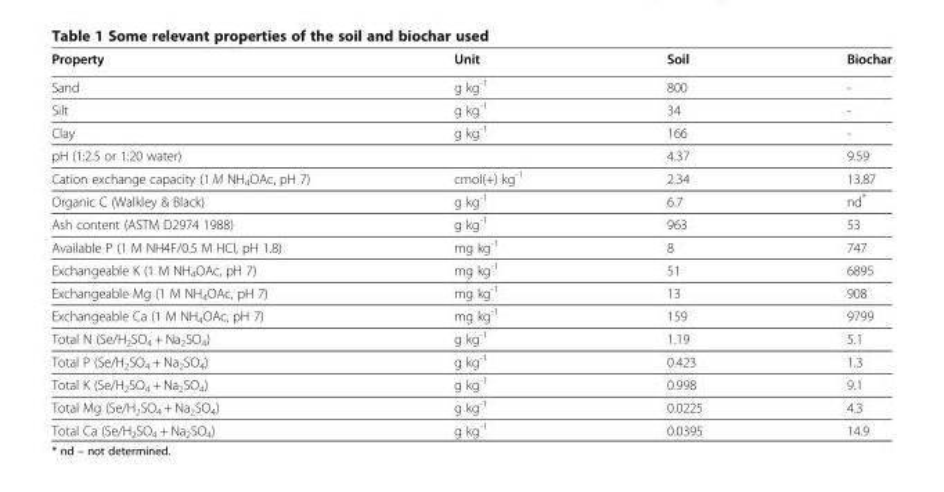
<table><thead><tr><td>Property</td><td>Unit</td><td>Soil</td><td>Biochar</td></tr></thead><tbody><tr><td>Sand</td><td>g kg<sup>-1</sup></td><td>800</td><td>-</td></tr><tr><td>Silt</td><td>g kg<sup>-1</sup></td><td>34</td><td>-</td></tr><tr><td>Clay</td><td>g kg<sup>-1</sup></td><td>166</td><td>-</td></tr><tr><td>pH (1:2.5 or 1:20 water)</td><td></td><td>4.37</td><td>9.59</td></tr><tr><td>Cation exchange capacity (1 M NH<sub>4</sub>OAc, pH 7)</td><td>cmol(+) kg<sup>-1</sup></td><td>2.34</td><td>13.87</td></tr><tr><td>Organic C (Walkley &amp; Black)</td><td>g kg<sup>-1</sup></td><td>6.7</td><td>nd*</td></tr><tr><td>Ash content (ASTM D2974 1988)</td><td>g kg<sup>-1</sup></td><td>963</td><td>53</td></tr><tr><td>Available P (1 M NH4F/0.5 M HCl, pH 1.8)</td><td>mg kg<sup>-1</sup></td><td>8</td><td>747</td></tr><tr><td>Exchangeable K (1 M NH<sub>4</sub>OAc, pH 7)</td><td>mg kg<sup>-1</sup></td><td>51</td><td>6895</td></tr><tr><td>Exchangeable Mg (1 M NH<sub>4</sub>OAc, pH 7)</td><td>mg kg<sup>-1</sup></td><td>13</td><td>908</td></tr><tr><td>Exchangeable Ca (1 M NH<sub>4</sub>OAc, pH 7)</td><td>mg kg<sup>-1</sup></td><td>159</td><td>9799</td></tr><tr><td>Total N (Se/H<sub>2</sub>SO<sub>4</sub> + Na<sub>2</sub>SO<sub>4</sub>)</td><td>g kg<sup>-1</sup></td><td>1.19</td><td>5.1</td></tr><tr><td>Total P (Se/H<sub>2</sub>SO<sub>4</sub> + Na<sub>2</sub>SO<sub>4</sub>)</td><td>g kg<sup>-1</sup></td><td>0.423</td><td>1.3</td></tr><tr><td>Total K (Se/H<sub>2</sub>SO<sub>4</sub> + Na<sub>2</sub>SO<sub>4</sub>)</td><td>g kg<sup>-1</sup></td><td>0.998</td><td>9.1</td></tr><tr><td>Total Mg (Se/H<sub>2</sub>SO<sub>4</sub> + Na<sub>2</sub>SO<sub>4</sub>)</td><td>g kg<sup>-1</sup></td><td>0.0225</td><td>4.3</td></tr><tr><td>Total Ca (Se/H<sub>2</sub>SO<sub>4</sub> + Na<sub>2</sub>SO<sub>4</sub>)</td><td>g kg<sup>-1</sup></td><td>0.0395</td><td>14.9</td></tr></tbody></table>